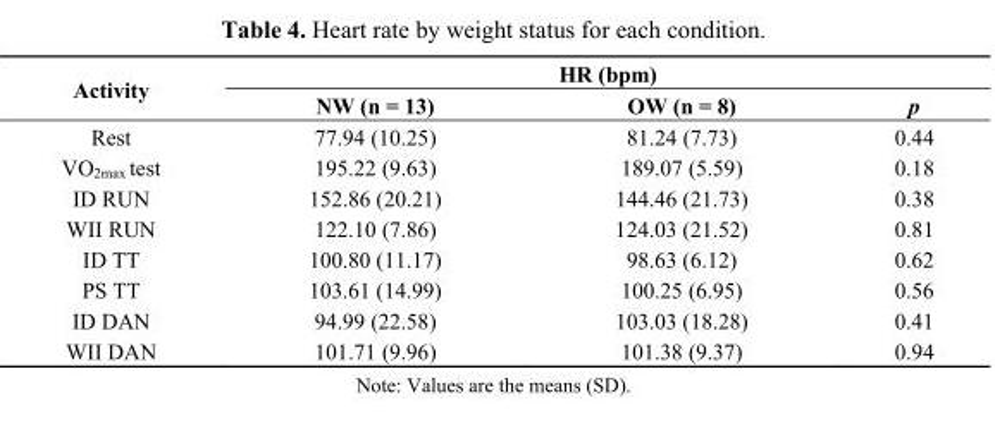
<table><thead><tr><td rowspan="2">Activity</td><td colspan="3">HR (bpm)</td></tr><tr><td>NW (n = 13)</td><td>OW (n = 8)</td><td>p</td></tr></thead><tbody><tr><td>Rest</td><td>77.94 (10.25)</td><td>81.24 (7.73)</td><td>0.44</td></tr><tr><td>VO<sub>2max</sub> test</td><td>195.22 (9.63)</td><td>189.07 (5.59)</td><td>0.18</td></tr><tr><td>ID RUN</td><td>152.86 (20.21)</td><td>144.46 (21.73)</td><td>0.38</td></tr><tr><td>WII RUN</td><td>122.10 (7.86)</td><td>124.03 (21.52)</td><td>0.81</td></tr><tr><td>ID TT</td><td>100.80 (11.17)</td><td>98.63 (6.12)</td><td>0.62</td></tr><tr><td>PS TT</td><td>103.61 (14.99)</td><td>100.25 (6.95)</td><td>0.56</td></tr><tr><td>ID DAN</td><td>94.99 (22.58)</td><td>103.03 (18.28)</td><td>0.41</td></tr><tr><td>WII DAN</td><td>101.71 (9.96)</td><td>101.38 (9.37)</td><td>0.94</td></tr></tbody></table>